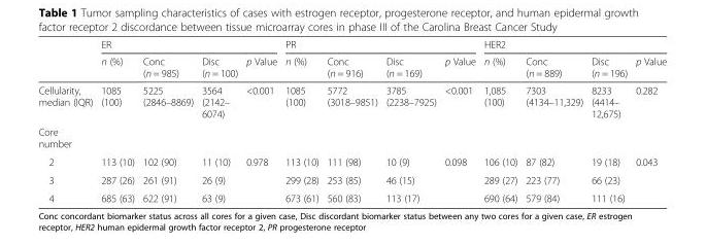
<table><thead><tr><td rowspan="2"></td><td colspan="4">ER</td><td colspan="4">PR</td><td colspan="4">HER2</td></tr><tr><td>n (%)</td><td>Conc (n = 985)</td><td>Disc (n = 100)</td><td>p Value</td><td>n (%)</td><td>Conc (n = 916)</td><td>Disc (n = 169)</td><td>p Value</td><td>n (%)</td><td>Conc (n = 889)</td><td>Disc (n = 196)</td><td>p Value</td></tr></thead><tbody><tr><td>Cellularity, median (IQR)</td><td>1085 (100)</td><td>5225 (2846–8869)</td><td>3564 (2142– 6074)</td><td>&lt;0.001</td><td>1085 (100)</td><td>5772 (3018–9851)</td><td>3785 (2238–7925)</td><td>&lt;0.001</td><td>1,085 (100)</td><td>7303 (4134–11,329)</td><td>8233 (4414– 12,675)</td><td>0.282</td></tr><tr><td colspan="13">Core number</td></tr><tr><td>2</td><td>113 (10)</td><td>102 (90)</td><td>11 (10)</td><td rowspan="3">0.978</td><td>113 (10)</td><td>111 (98)</td><td>10 (9)</td><td rowspan="3">0.098</td><td>106 (10)</td><td>87 (82)</td><td>19 (18)</td><td rowspan="3">0.043</td></tr><tr><td>3</td><td>287 (26)</td><td>261 (91)</td><td>26 (9)</td><td>299 (28)</td><td>253 (85)</td><td>46 (15)</td><td>289 (27)</td><td>223 (77)</td><td>66 (23)</td></tr><tr><td>4</td><td>685 (63)</td><td>622 (91)</td><td>63 (9)</td><td>673 (61)</td><td>560 (83)</td><td>113 (17)</td><td>690 (64)</td><td>579 (84)</td><td>111 (16)</td></tr></tbody></table>